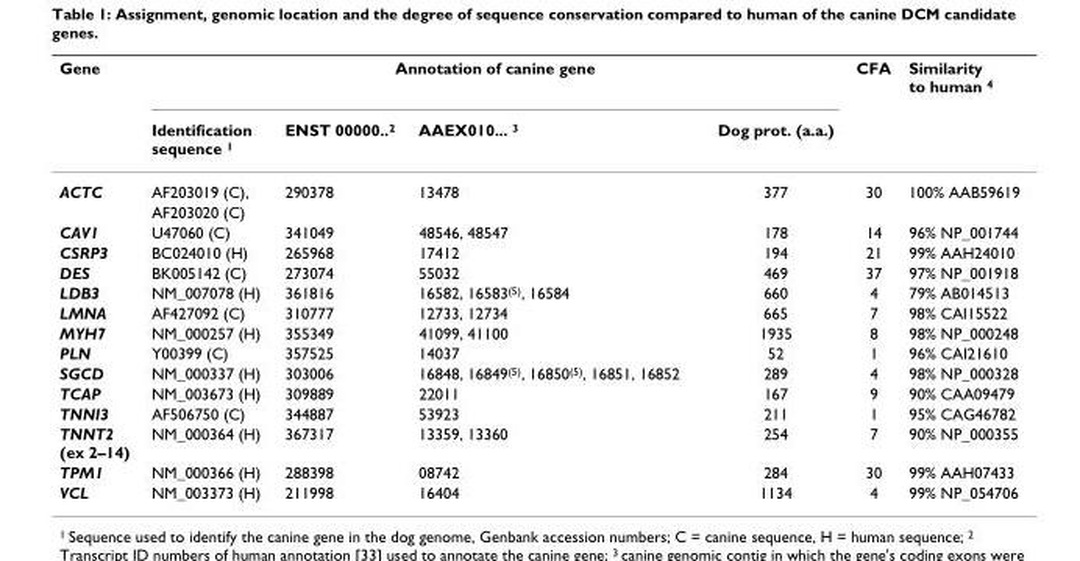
<table><thead><tr><td rowspan="2">Gene</td><td colspan="4">Annotation of canine gene</td><td rowspan="2">CFA</td><td rowspan="2">Similarity to human <sup>4</sup></td></tr><tr><td>Identification sequence <sup>1</sup></td><td>ENST 00000..<sup>2</sup></td><td>AAEX010... <sup>3</sup></td><td>Dog prot. (a.a.)</td></tr></thead><tbody><tr><td rowspan="2">ACTC</td><td>AF203019 (C),</td><td>290378</td><td>13478</td><td>377</td><td>30</td><td>100% AAB59619</td></tr><tr><td>AF203020 (C)</td><td></td><td></td><td></td><td></td><td></td></tr><tr><td>CAV1</td><td>U47060 (C)</td><td>341049</td><td>48546, 48547</td><td>178</td><td>14</td><td>96% NP_001744</td></tr><tr><td>CSRP3</td><td>BC024010 (H)</td><td>265968</td><td>17412</td><td>194</td><td>21</td><td>99% AAH24010</td></tr><tr><td>DES</td><td>BK005142 (C)</td><td>273074</td><td>55032</td><td>469</td><td>37</td><td>97% NP_001918</td></tr><tr><td>LDB3</td><td>NM_007078 (H)</td><td>361816</td><td>16582, 16583<sup>(5)</sup>, 16584</td><td>660</td><td>4</td><td>79% AB014513</td></tr><tr><td>LMNA</td><td>AF427092 (C)</td><td>310777</td><td>12733, 12734</td><td>665</td><td>7</td><td>98% CAI15522</td></tr><tr><td>MYH7</td><td>NM_000257 (H)</td><td>355349</td><td>41099, 41100</td><td>1935</td><td>8</td><td>98% NP_000248</td></tr><tr><td>PLN</td><td>Y00399 (C)</td><td>357525</td><td>14037</td><td>52</td><td>1</td><td>96% CAI21610</td></tr><tr><td>SGCD</td><td>NM_000337 (H)</td><td>303006</td><td>16848, 16849<sup>(5)</sup>, 16850<sup>(5)</sup>, 16851, 16852</td><td>289</td><td>4</td><td>98% NP_000328</td></tr><tr><td>TCAP</td><td>NM_003673 (H)</td><td>309889</td><td>22011</td><td>167</td><td>9</td><td>90% CAA09479</td></tr><tr><td>TNNI3</td><td>AF506750 (C)</td><td>344887</td><td>53923</td><td>211</td><td>1</td><td>95% CAG46782</td></tr><tr><td>TNNT2 (ex 2–14)</td><td>NM_000364 (H)</td><td>367317</td><td>13359, 13360</td><td>254</td><td>7</td><td>90% NP_000355</td></tr><tr><td>TPM1</td><td>NM_000366 (H)</td><td>288398</td><td>08742</td><td>284</td><td>30</td><td>99% AAH07433</td></tr><tr><td>VCL</td><td>NM_003373 (H)</td><td>211998</td><td>16404</td><td>1134</td><td>4</td><td>99% NP_054706</td></tr></tbody></table>